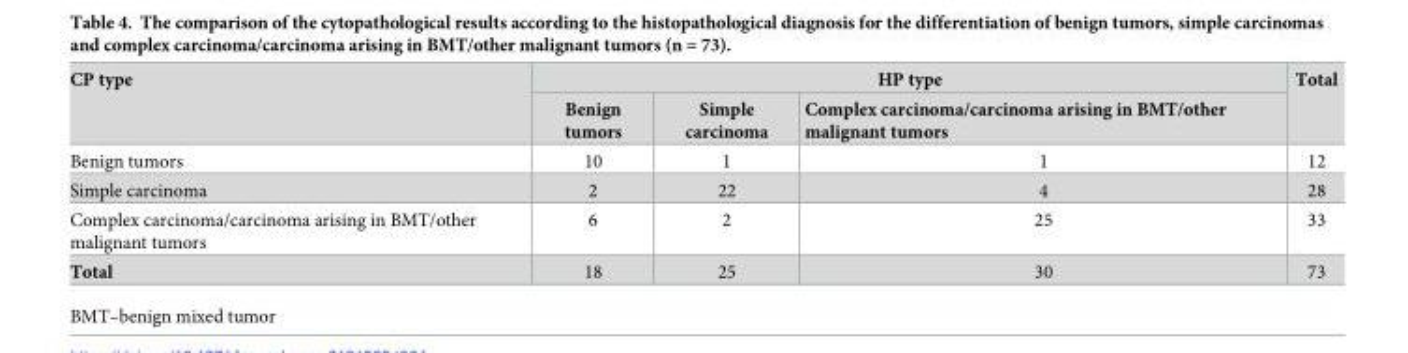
<table><thead><tr><td rowspan="2">CP type</td><td colspan="3">HP type</td><td rowspan="2">Total</td></tr><tr><td>Benign tumors</td><td>Simple carcinoma</td><td>Complex carcinoma/carcinoma arising in BMT/other malignant tumors</td></tr></thead><tbody><tr><td>Benign tumors</td><td>10</td><td>1</td><td>1</td><td>12</td></tr><tr><td>Simple carcinoma</td><td>2</td><td>22</td><td>4</td><td>28</td></tr><tr><td>Complex carcinoma/carcinoma arising in BMT/other malignant tumors</td><td>6</td><td>2</td><td>25</td><td>33</td></tr><tr><td>Total</td><td>18</td><td>25</td><td>30</td><td>73</td></tr></tbody></table>